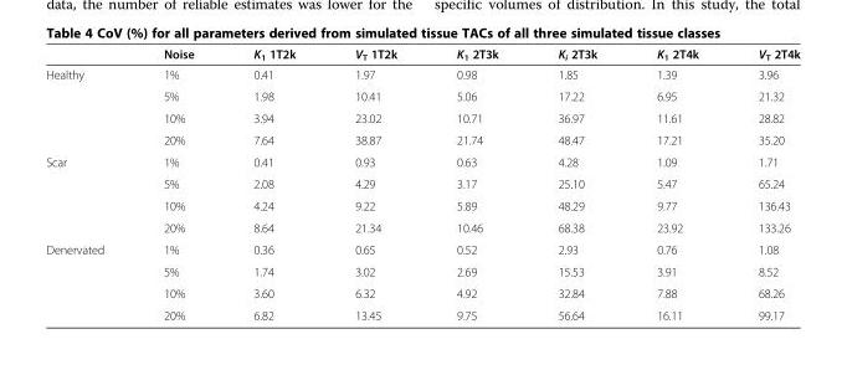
<table><thead><tr><td></td><td>Noise</td><td>K<sub>1</sub> 1T2k</td><td>V<sub>T</sub> 1T2k</td><td>K<sub>1</sub> 2T3k</td><td>K<sub>i</sub> 2T3k</td><td>K<sub>1</sub> 2T4k</td><td>V<sub>T</sub> 2T4k</td></tr></thead><tbody><tr><td rowspan="4">Healthy</td><td>1%</td><td>0.41</td><td>1.97</td><td>0.98</td><td>1.85</td><td>1.39</td><td>3.96</td></tr><tr><td>5%</td><td>1.98</td><td>10.41</td><td>5.06</td><td>17.22</td><td>6.95</td><td>21.32</td></tr><tr><td>10%</td><td>3.94</td><td>23.02</td><td>10.71</td><td>36.97</td><td>11.61</td><td>28.82</td></tr><tr><td>20%</td><td>7.64</td><td>38.87</td><td>21.74</td><td>48.47</td><td>17.21</td><td>35.20</td></tr><tr><td rowspan="4">Scar</td><td>1%</td><td>0.41</td><td>0.93</td><td>0.63</td><td>4.28</td><td>1.09</td><td>1.71</td></tr><tr><td>5%</td><td>2.08</td><td>4.29</td><td>3.17</td><td>25.10</td><td>5.47</td><td>65.24</td></tr><tr><td>10%</td><td>4.24</td><td>9.22</td><td>5.89</td><td>48.29</td><td>9.77</td><td>136.43</td></tr><tr><td>20%</td><td>8.64</td><td>21.34</td><td>10.46</td><td>68.38</td><td>23.92</td><td>133.26</td></tr><tr><td rowspan="4">Denervated</td><td>1%</td><td>0.36</td><td>0.65</td><td>0.52</td><td>2.93</td><td>0.76</td><td>1.08</td></tr><tr><td>5%</td><td>1.74</td><td>3.02</td><td>2.69</td><td>15.53</td><td>3.91</td><td>8.52</td></tr><tr><td>10%</td><td>3.60</td><td>6.32</td><td>4.92</td><td>32.84</td><td>7.88</td><td>68.26</td></tr><tr><td>20%</td><td>6.82</td><td>13.45</td><td>9.75</td><td>56.64</td><td>16.11</td><td>99.17</td></tr></tbody></table>